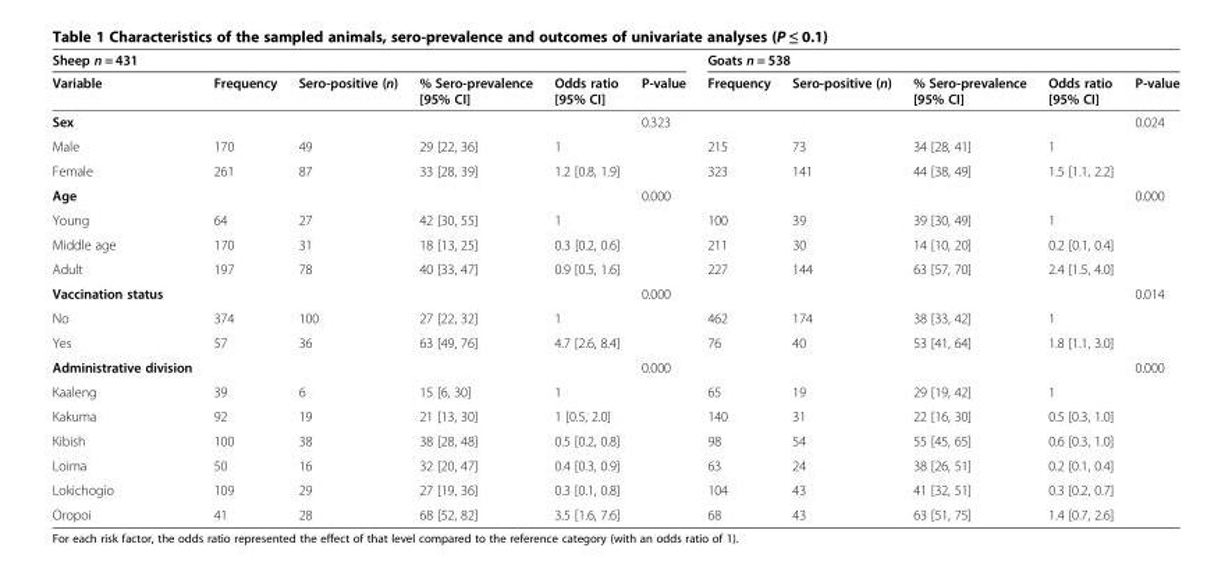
<table><thead><tr><td colspan="6">Sheep n = 431</td><td colspan="5">Goats n = 538</td></tr><tr><td>Variable</td><td>Frequency</td><td>Sero-positive (n)</td><td>% Sero-prevalence [95% CI]</td><td>Odds ratio [95% CI]</td><td>P-value</td><td>Frequency</td><td>Sero-positive (n)</td><td>% Sero-prevalence [95% CI]</td><td>Odds ratio [95% CI]</td><td>P-value</td></tr></thead><tbody><tr><td>Sex</td><td></td><td></td><td></td><td></td><td>0.323</td><td></td><td></td><td></td><td></td><td>0.024</td></tr><tr><td>Male</td><td>170</td><td>49</td><td>29 [22, 36]</td><td>1</td><td></td><td>215</td><td>73</td><td>34 [28, 41]</td><td>1</td><td></td></tr><tr><td>Female</td><td>261</td><td>87</td><td>33 [28, 39]</td><td>1.2 [0.8, 1.9]</td><td></td><td>323</td><td>141</td><td>44 [38, 49]</td><td>1.5 [1.1, 2.2]</td><td></td></tr><tr><td>Age</td><td></td><td></td><td></td><td></td><td>0.000</td><td></td><td></td><td></td><td></td><td>0.000</td></tr><tr><td>Young</td><td>64</td><td>27</td><td>42 [30, 55]</td><td>1</td><td></td><td>100</td><td>39</td><td>39 [30, 49]</td><td>1</td><td></td></tr><tr><td>Middle age</td><td>170</td><td>31</td><td>18 [13, 25]</td><td>0.3 [0.2, 0.6]</td><td></td><td>211</td><td>30</td><td>14 [10, 20]</td><td>0.2 [0.1, 0.4]</td><td></td></tr><tr><td>Adult</td><td>197</td><td>78</td><td>40 [33, 47]</td><td>0.9 [0.5, 1.6]</td><td></td><td>227</td><td>144</td><td>63 [57, 70]</td><td>2.4 [1.5, 4.0]</td><td></td></tr><tr><td>Vaccination status</td><td></td><td></td><td></td><td></td><td>0.000</td><td></td><td></td><td></td><td></td><td>0.014</td></tr><tr><td>No</td><td>374</td><td>100</td><td>27 [22, 32]</td><td>1</td><td></td><td>462</td><td>174</td><td>38 [33, 42]</td><td>1</td><td></td></tr><tr><td>Yes</td><td>57</td><td>36</td><td>63 [49, 76]</td><td>4.7 [2.6, 8.4]</td><td></td><td>76</td><td>40</td><td>53 [41, 64]</td><td>1.8 [1.1, 3.0]</td><td></td></tr><tr><td>Administrative division</td><td></td><td></td><td></td><td></td><td>0.000</td><td></td><td></td><td></td><td></td><td>0.000</td></tr><tr><td>Kaaleng</td><td>39</td><td>6</td><td>15 [6, 30]</td><td>1</td><td></td><td>65</td><td>19</td><td>29 [19, 42]</td><td>1</td><td></td></tr><tr><td>Kakuma</td><td>92</td><td>19</td><td>21 [13, 30]</td><td>1 [0.5, 2.0]</td><td></td><td>140</td><td>31</td><td>22 [16, 30]</td><td>0.5 [0.3, 1.0]</td><td></td></tr><tr><td>Kibish</td><td>100</td><td>38</td><td>38 [28, 48]</td><td>0.5 [0.2, 0.8]</td><td></td><td>98</td><td>54</td><td>55 [45, 65]</td><td>0.6 [0.3, 1.0]</td><td></td></tr><tr><td>Loima</td><td>50</td><td>16</td><td>32 [20, 47]</td><td>0.4 [0.3, 0.9]</td><td></td><td>63</td><td>24</td><td>38 [26, 51]</td><td>0.2 [0.1, 0.4]</td><td></td></tr><tr><td>Lokichogio</td><td>109</td><td>29</td><td>27 [19, 36]</td><td>0.3 [0.1, 0.8]</td><td></td><td>104</td><td>43</td><td>41 [32, 51]</td><td>0.3 [0.2, 0.7]</td><td></td></tr><tr><td>Oropoi</td><td>41</td><td>28</td><td>68 [52, 82]</td><td>3.5 [1.6, 7.6]</td><td></td><td>68</td><td>43</td><td>63 [51, 75]</td><td>1.4 [0.7, 2.6]</td><td></td></tr></tbody></table>